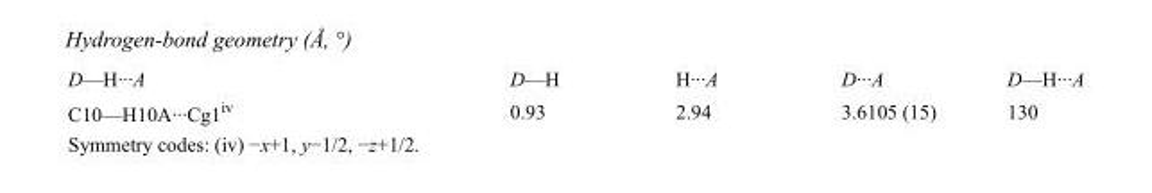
<table><tbody><tr><td>D—H···A</td><td>D—H</td><td>H···A</td><td>D···A</td><td>D—H···A</td></tr><tr><td>C10—H10A···Cg1<sup>iv</sup></td><td>0.93</td><td>2.94</td><td>3.6105 (15)</td><td>130</td></tr></tbody></table>